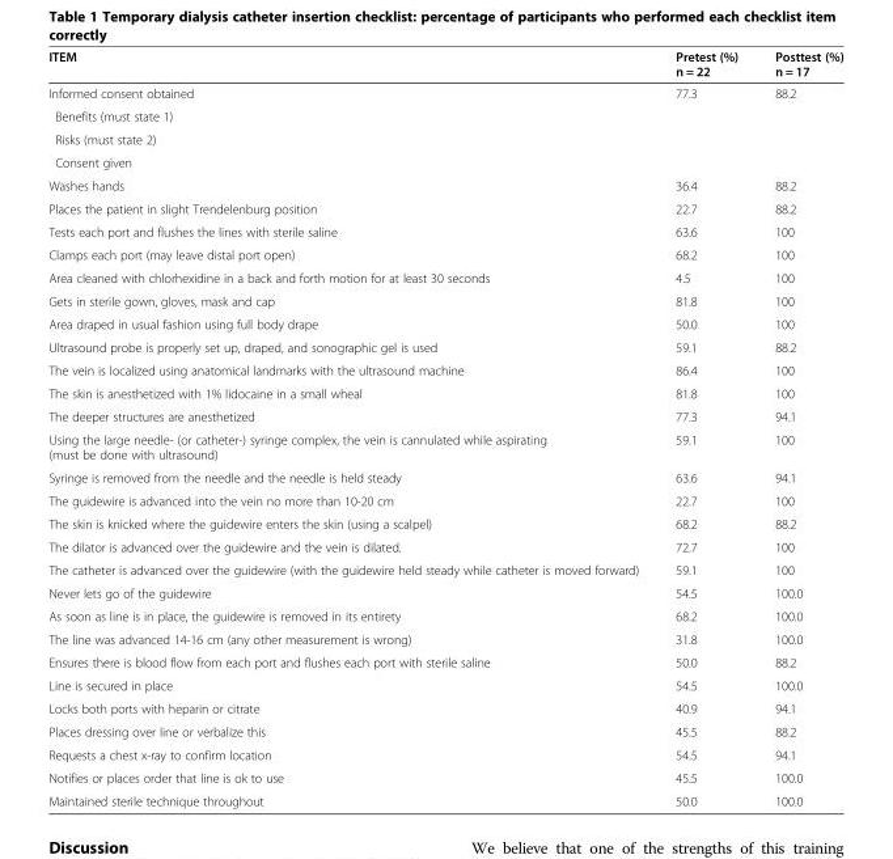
<table><thead><tr><td>ITEM</td><td>Pretest (%) n = 22</td><td>Posttest (%) n = 17</td></tr></thead><tbody><tr><td>Informed consent obtained</td><td rowspan="4">77.3</td><td rowspan="4">88.2</td></tr><tr><td>Benefits (must state 1)</td></tr><tr><td>Risks (must state 2)</td></tr><tr><td>Consent given</td></tr><tr><td>Washes hands</td><td>36.4</td><td>88.2</td></tr><tr><td>Places the patient in slight Trendelenburg position</td><td>22.7</td><td>88.2</td></tr><tr><td>Tests each port and flushes the lines with sterile saline</td><td>63.6</td><td>100</td></tr><tr><td>Clamps each port (may leave distal port open)</td><td>68.2</td><td>100</td></tr><tr><td>Area cleaned with chlorhexidine in a back and forth motion for at least 30 seconds</td><td>4.5</td><td>100</td></tr><tr><td>Gets in sterile gown, gloves, mask and cap</td><td>81.8</td><td>100</td></tr><tr><td>Area draped in usual fashion using full body drape</td><td>50.0</td><td>100</td></tr><tr><td>Ultrasound probe is properly set up, draped, and sonographic gel is used</td><td>59.1</td><td>88.2</td></tr><tr><td>The vein is localized using anatomical landmarks with the ultrasound machine</td><td>86.4</td><td>100</td></tr><tr><td>The skin is anesthetized with 1% lidocaine in a small wheal</td><td>81.8</td><td>100</td></tr><tr><td>The deeper structures are anesthetized</td><td>77.3</td><td>94.1</td></tr><tr><td>Using the large needle- (or catheter-) syringe complex, the vein is cannulated while aspirating (must be done with ultrasound)</td><td>59.1</td><td>100</td></tr><tr><td>Syringe is removed from the needle and the needle is held steady</td><td>63.6</td><td>94.1</td></tr><tr><td>The guidewire is advanced into the vein no more than 10-20 cm</td><td>22.7</td><td>100</td></tr><tr><td>The skin is knicked where the guidewire enters the skin (using a scalpel)</td><td>68.2</td><td>88.2</td></tr><tr><td>The dilator is advanced over the guidewire and the vein is dilated.</td><td>72.7</td><td>100</td></tr><tr><td>The catheter is advanced over the guidewire (with the guidewire held steady while catheter is moved forward)</td><td>59.1</td><td>100</td></tr><tr><td>Never lets go of the guidewire</td><td>54.5</td><td>100.0</td></tr><tr><td>As soon as line is in place, the guidewire is removed in its entirety</td><td>68.2</td><td>100.0</td></tr><tr><td>The line was advanced 14-16 cm (any other measurement is wrong)</td><td>31.8</td><td>100.0</td></tr><tr><td>Ensures there is blood flow from each port and flushes each port with sterile saline</td><td>50.0</td><td>88.2</td></tr><tr><td>Line is secured in place</td><td>54.5</td><td>100.0</td></tr><tr><td>Locks both ports with heparin or citrate</td><td>40.9</td><td>94.1</td></tr><tr><td>Places dressing over line or verbalize this</td><td>45.5</td><td>88.2</td></tr><tr><td>Requests a chest x-ray to confirm location</td><td>54.5</td><td>94.1</td></tr><tr><td>Notifies or places order that line is ok to use</td><td>45.5</td><td>100.0</td></tr><tr><td>Maintained sterile technique throughout</td><td>50.0</td><td>100.0</td></tr></tbody></table>